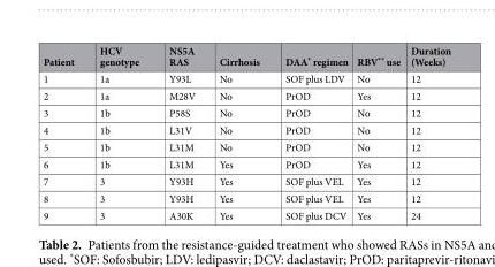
<table><thead><tr><td>Patient</td><td>HCV genotype</td><td>NS5A RAS</td><td>Cirrhosis</td><td>DAA* regimen</td><td>RBV** use</td><td>Duration (Weeks)</td></tr></thead><tbody><tr><td>1</td><td>1a</td><td>Y93L</td><td>No</td><td>SOF plus LDV</td><td>No</td><td>12</td></tr><tr><td>2</td><td>1a</td><td>M28V</td><td>No</td><td>PrOD</td><td>Yes</td><td>12</td></tr><tr><td>3</td><td>1b</td><td>P58S</td><td>No</td><td>PrOD</td><td>No</td><td>12</td></tr><tr><td>4</td><td>1b</td><td>L31V</td><td>No</td><td>PrOD</td><td>No</td><td>12</td></tr><tr><td>5</td><td>1b</td><td>L31M</td><td>No</td><td>PrOD</td><td>No</td><td>12</td></tr><tr><td>6</td><td>1b</td><td>L31M</td><td>Yes</td><td>PrOD</td><td>Yes</td><td>12</td></tr><tr><td>7</td><td>3</td><td>Y93H</td><td>Yes</td><td>SOF plus VEL</td><td>Yes</td><td>12</td></tr><tr><td>8</td><td>3</td><td>Y93H</td><td>Yes</td><td>SOF plus VEL</td><td>Yes</td><td>12</td></tr><tr><td>9</td><td>3</td><td>A30K</td><td>Yes</td><td>SOF plus DCV</td><td>Yes</td><td>24</td></tr></tbody></table>